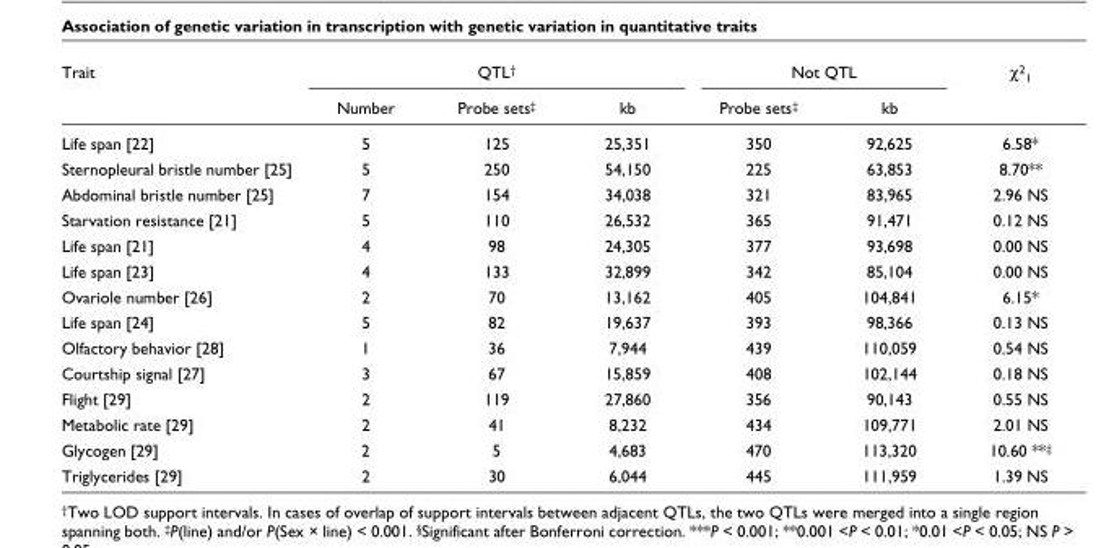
<table><thead><tr><td rowspan="2">Trait</td><td colspan="3">QTL†</td><td colspan="2">Not QTL</td><td rowspan="2">χ21</td></tr><tr><td>Number</td><td>Probe sets‡</td><td>kb</td><td>Probe sets‡</td><td>kb</td></tr></thead><tbody><tr><td>Life span [22]</td><td>5</td><td>125</td><td>25,351</td><td>350</td><td>92,625</td><td>6.58*</td></tr><tr><td>Sternopleural bristle number [25]</td><td>5</td><td>250</td><td>54,150</td><td>225</td><td>63,853</td><td>8.70**</td></tr><tr><td>Abdominal bristle number [25]</td><td>7</td><td>154</td><td>34,038</td><td>321</td><td>83,965</td><td>2.96 NS</td></tr><tr><td>Starvation resistance [21]</td><td>5</td><td>110</td><td>26,532</td><td>365</td><td>91,471</td><td>0.12 NS</td></tr><tr><td>Life span [21]</td><td>4</td><td>98</td><td>24,305</td><td>377</td><td>93,698</td><td>0.00 NS</td></tr><tr><td>Life span [23]</td><td>4</td><td>133</td><td>32,899</td><td>342</td><td>85,104</td><td>0.00 NS</td></tr><tr><td>Ovariole number [26]</td><td>2</td><td>70</td><td>13,162</td><td>405</td><td>104,841</td><td>6.15*</td></tr><tr><td>Life span [24]</td><td>5</td><td>82</td><td>19,637</td><td>393</td><td>98,366</td><td>0.13 NS</td></tr><tr><td>Olfactory behavior [28]</td><td>1</td><td>36</td><td>7,944</td><td>439</td><td>110,059</td><td>0.54 NS</td></tr><tr><td>Courtship signal [27]</td><td>3</td><td>67</td><td>15,859</td><td>408</td><td>102,144</td><td>0.18 NS</td></tr><tr><td>Flight [29]</td><td>2</td><td>119</td><td>27,860</td><td>356</td><td>90,143</td><td>0.55 NS</td></tr><tr><td>Metabolic rate [29]</td><td>2</td><td>41</td><td>8,232</td><td>434</td><td>109,771</td><td>2.01 NS</td></tr><tr><td>Glycogen [29]</td><td>2</td><td>5</td><td>4,683</td><td>470</td><td>113,320</td><td>10.60 **‡</td></tr><tr><td>Triglycerides [29]</td><td>2</td><td>30</td><td>6,044</td><td>445</td><td>111,959</td><td>1.39 NS</td></tr></tbody></table>